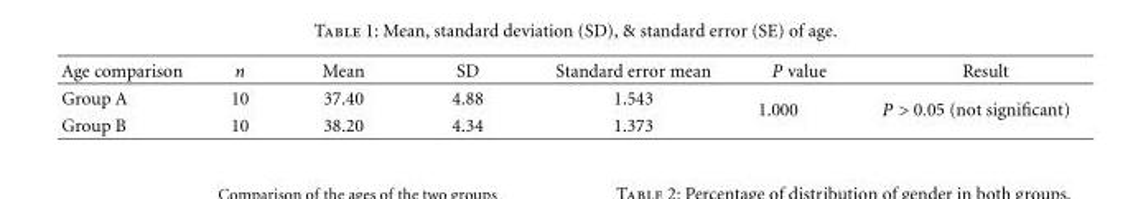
<table><thead><tr><td>Age comparison</td><td>n</td><td>Mean</td><td>SD</td><td>Standard error mean</td><td>P value</td><td>Result</td></tr></thead><tbody><tr><td>Group A</td><td>10</td><td>37.40</td><td>4.88</td><td>1.543</td><td rowspan="2">1.000</td><td rowspan="2">P &gt; 0.05 (not significant)</td></tr><tr><td>Group B</td><td>10</td><td>38.20</td><td>4.34</td><td>1.373</td></tr></tbody></table>